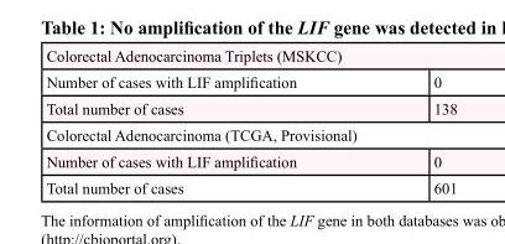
<table><tbody><tr><td colspan="2">Colorectal Adenocarcinoma Triplets (MSKCC)</td></tr><tr><td>Number of cases with LIF amplification</td><td>0</td></tr><tr><td>Total number of cases</td><td>138</td></tr><tr><td colspan="2">Colorectal Adenocarcinoma (TCGA, Provisional)</td></tr><tr><td>Number of cases with LIF amplification</td><td>0</td></tr><tr><td>Total number of cases</td><td>601</td></tr></tbody></table>